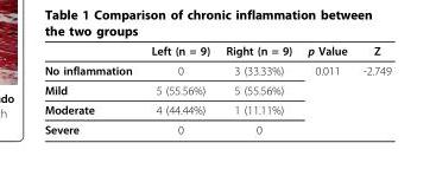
<table><thead><tr><td></td><td>Left (n = 9)</td><td>Right (n = 9)</td><td>p Value</td><td>Z</td></tr></thead><tbody><tr><td>No inflammation</td><td>0</td><td>3 (33.33%)</td><td>0.011</td><td>-2.749</td></tr><tr><td>Mild</td><td>5 (55.56%)</td><td>5 (55.56%)</td><td></td><td></td></tr><tr><td>Moderate</td><td>4 (44.44%)</td><td>1 (11.11%)</td><td></td><td></td></tr><tr><td>Severe</td><td>0</td><td>0</td><td></td><td></td></tr></tbody></table>